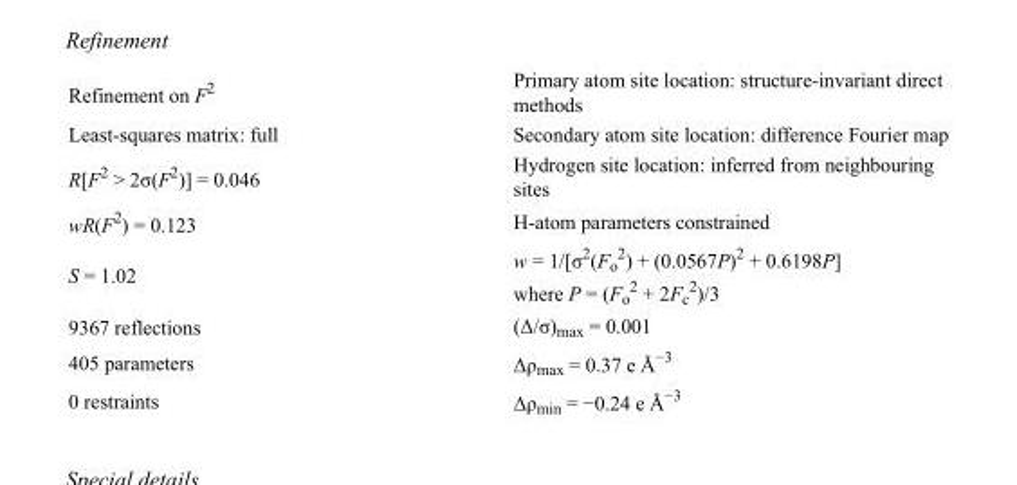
<table><tbody><tr><td>Refinement on F<sup>2</sup></td><td>Primary atom site location: structure-invariant direct methods</td></tr><tr><td>Least-squares matrix: full</td><td>Secondary atom site location: difference Fourier map</td></tr><tr><td>R[F<sup>2</sup> &gt; 2σ(F<sup>2</sup>)] = 0.046</td><td>Hydrogen site location: inferred from neighbouring sites</td></tr><tr><td>wR(F<sup>2</sup>) = 0.123</td><td>H-atom parameters constrained</td></tr><tr><td>S = 1.02</td><td>w = 1/[σ<sup>2</sup>(F<sub>o</sub> <sup>2</sup>) + (0.0567P)<sup>2</sup> + 0.6198P] where P = (F<sub>o</sub> <sup>2</sup> + 2F<sub>c</sub> <sup>2</sup>)/3</td></tr><tr><td>9367 reflections</td><td>(Δ/σ)<sub>max</sub> = 0.001</td></tr><tr><td>405 parameters</td><td>Δρ<sub>max</sub> = 0.37 e Å<sup>−3</sup></td></tr><tr><td>0 restraints</td><td>Δρ<sub>min</sub> = −0.24 e Å<sup>−3</sup></td></tr></tbody></table>